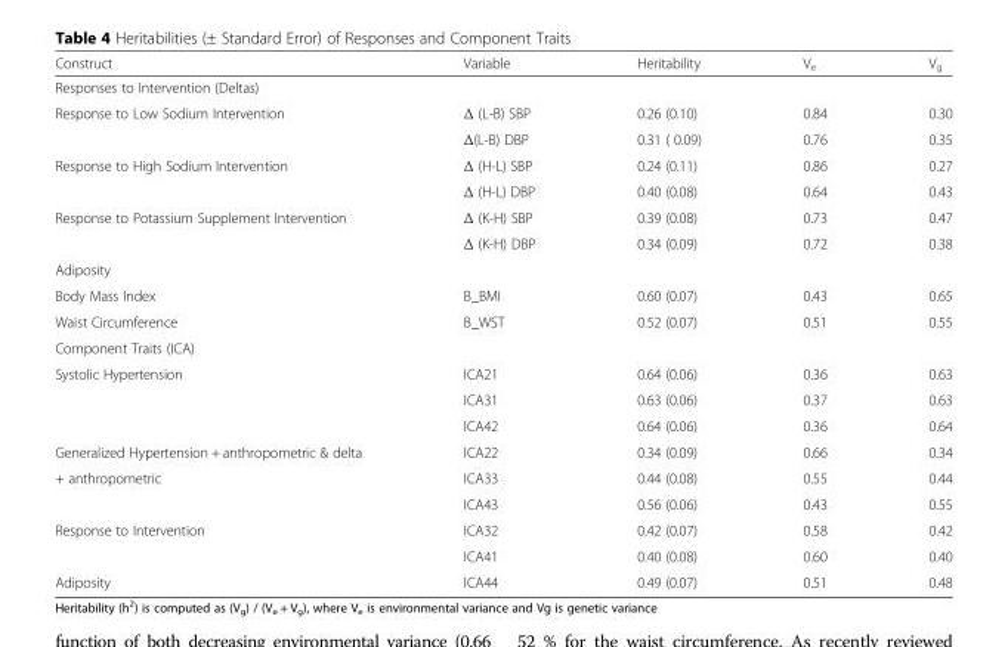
<table><thead><tr><td>Construct</td><td>Variable</td><td>Heritability</td><td>V<sub>e</sub></td><td>V<sub>g</sub></td></tr></thead><tbody><tr><td colspan="5">Responses to Intervention (Deltas)</td></tr><tr><td rowspan="2">Response to Low Sodium Intervention</td><td>Δ (L-B) SBP</td><td>0.26 (0.10)</td><td>0.84</td><td>0.30</td></tr><tr><td>Δ(L-B) DBP</td><td>0.31 ( 0.09)</td><td>0.76</td><td>0.35</td></tr><tr><td rowspan="2">Response to High Sodium Intervention</td><td>Δ (H-L) SBP</td><td>0.24 (0.11)</td><td>0.86</td><td>0.27</td></tr><tr><td>Δ (H-L) DBP</td><td>0.40 (0.08)</td><td>0.64</td><td>0.43</td></tr><tr><td rowspan="2">Response to Potassium Supplement Intervention</td><td>Δ (K-H) SBP</td><td>0.39 (0.08)</td><td>0.73</td><td>0.47</td></tr><tr><td>Δ (K-H) DBP</td><td>0.34 (0.09)</td><td>0.72</td><td>0.38</td></tr><tr><td colspan="5">Adiposity</td></tr><tr><td>Body Mass Index</td><td>B_BMI</td><td>0.60 (0.07)</td><td>0.43</td><td>0.65</td></tr><tr><td>Waist Circumference</td><td>B_WST</td><td>0.52 (0.07)</td><td>0.51</td><td>0.55</td></tr><tr><td colspan="5">Component Traits (ICA)</td></tr><tr><td rowspan="3">Systolic Hypertension</td><td>ICA21</td><td>0.64 (0.06)</td><td>0.36</td><td>0.63</td></tr><tr><td>ICA31</td><td>0.63 (0.06)</td><td>0.37</td><td>0.63</td></tr><tr><td>ICA42</td><td>0.64 (0.06)</td><td>0.36</td><td>0.64</td></tr><tr><td>Generalized Hypertension + anthropometric &amp; delta</td><td>ICA22</td><td>0.34 (0.09)</td><td>0.66</td><td>0.34</td></tr><tr><td rowspan="2">+ anthropometric</td><td>ICA33</td><td>0.44 (0.08)</td><td>0.55</td><td>0.44</td></tr><tr><td>ICA43</td><td>0.56 (0.06)</td><td>0.43</td><td>0.55</td></tr><tr><td rowspan="2">Response to Intervention</td><td>ICA32</td><td>0.42 (0.07)</td><td>0.58</td><td>0.42</td></tr><tr><td>ICA41</td><td>0.40 (0.08)</td><td>0.60</td><td>0.40</td></tr><tr><td>Adiposity</td><td>ICA44</td><td>0.49 (0.07)</td><td>0.51</td><td>0.48</td></tr></tbody></table>